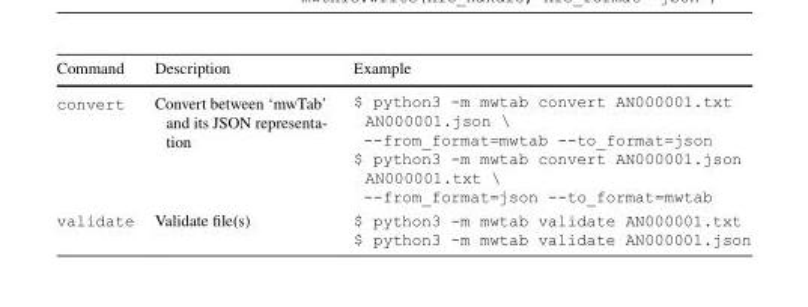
<table><thead><tr><td>Command</td><td>Description</td><td>Example</td></tr></thead><tbody><tr><td>convert</td><td>Convert between ‘mwTab’ and its JSON representa- tion</td><td>$ python3 -m mwtab convert AN000001.txt AN000001.json \ --from_format=mwtab --to_format=json $ python3 -m mwtab convert AN000001.json AN000001.txt \ --from_format=json --to_format=mwtab</td></tr><tr><td>validate</td><td>Validate file(s)</td><td>$ python3 -m mwtab validate AN000001.txt $ python3 -m mwtab validate AN000001.json</td></tr></tbody></table>